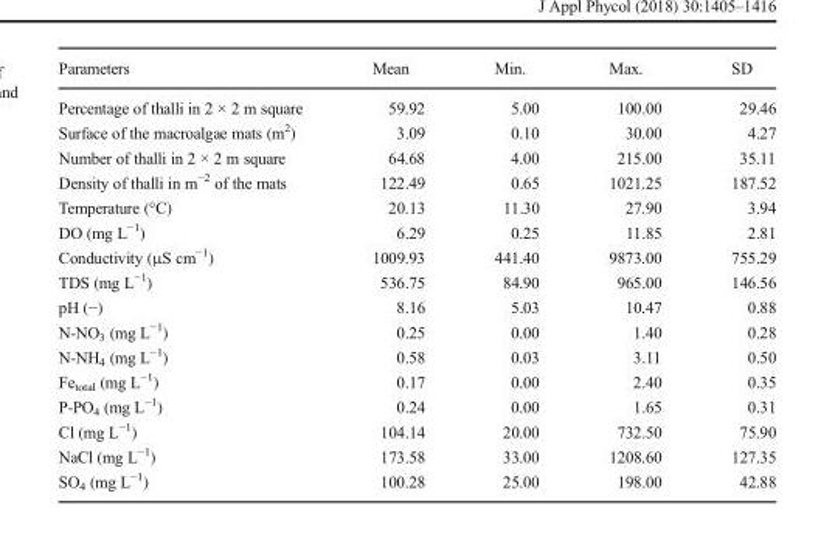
<table><thead><tr><td>Parameters</td><td>Mean</td><td>Min.</td><td>Max.</td><td>SD</td></tr></thead><tbody><tr><td>Percentage of thalli in 2 × 2 m square</td><td>59.92</td><td>5.00</td><td>100.00</td><td>29.46</td></tr><tr><td>Surface of the macroalgae mats (m<sup>2</sup>)</td><td>3.09</td><td>0.10</td><td>30.00</td><td>4.27</td></tr><tr><td>Number of thalli in 2 × 2 m square</td><td>64.68</td><td>4.00</td><td>215.00</td><td>35.11</td></tr><tr><td>Density of thalli in m<sup>−2</sup> of the mats</td><td>122.49</td><td>0.65</td><td>1021.25</td><td>187.52</td></tr><tr><td>Temperature (°C)</td><td>20.13</td><td>11.30</td><td>27.90</td><td>3.94</td></tr><tr><td>DO (mg L<sup>−1</sup>)</td><td>6.29</td><td>0.25</td><td>11.85</td><td>2.81</td></tr><tr><td>Conductivity (μS cm<sup>−1</sup>)</td><td>1009.93</td><td>441.40</td><td>9873.00</td><td>755.29</td></tr><tr><td>TDS (mg L<sup>−1</sup>)</td><td>536.75</td><td>84.90</td><td>965.00</td><td>146.56</td></tr><tr><td>pH (−)</td><td>8.16</td><td>5.03</td><td>10.47</td><td>0.88</td></tr><tr><td>N-NO<sub>3</sub> (mg L<sup>−1</sup>)</td><td>0.25</td><td>0.00</td><td>1.40</td><td>0.28</td></tr><tr><td>N-NH<sub>4</sub> (mg L<sup>−1</sup>)</td><td>0.58</td><td>0.03</td><td>3.11</td><td>0.50</td></tr><tr><td>Fe<sub>total</sub> (mg L<sup>−1</sup>)</td><td>0.17</td><td>0.00</td><td>2.40</td><td>0.35</td></tr><tr><td>P-PO<sub>4</sub> (mg L<sup>−1</sup>)</td><td>0.24</td><td>0.00</td><td>1.65</td><td>0.31</td></tr><tr><td>Cl (mg L<sup>−1</sup>)</td><td>104.14</td><td>20.00</td><td>732.50</td><td>75.90</td></tr><tr><td>NaCl (mg L<sup>−1</sup>)</td><td>173.58</td><td>33.00</td><td>1208.60</td><td>127.35</td></tr><tr><td>SO<sub>4</sub> (mg L<sup>−1</sup>)</td><td>100.28</td><td>25.00</td><td>198.00</td><td>42.88</td></tr></tbody></table>